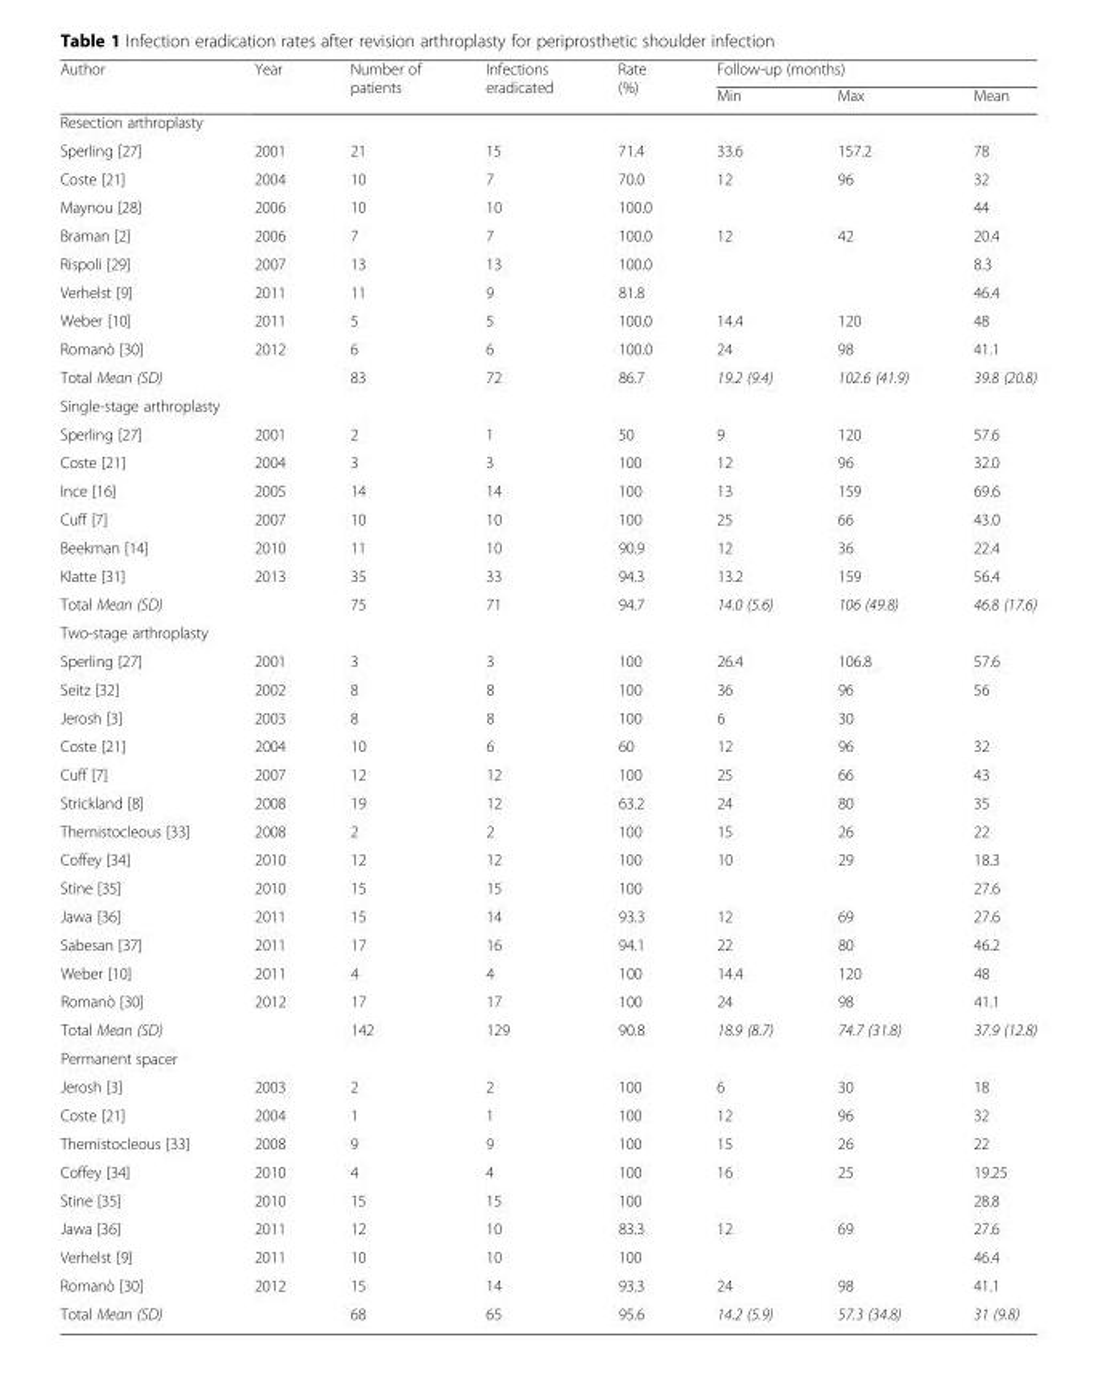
<table><thead><tr><td rowspan="2">Author</td><td rowspan="2">Year</td><td rowspan="2">Number of patients</td><td rowspan="2">Infections eradicated</td><td rowspan="2">Rate (%)</td><td colspan="3">Follow-up (months)</td></tr><tr><td>Min</td><td>Max</td><td>Mean</td></tr></thead><tbody><tr><td colspan="8">Resection arthroplasty</td></tr><tr><td>Sperling [27]</td><td>2001</td><td>21</td><td>15</td><td>71.4</td><td>33.6</td><td>157.2</td><td>78</td></tr><tr><td>Coste [21]</td><td>2004</td><td>10</td><td>7</td><td>70.0</td><td>12</td><td>96</td><td>32</td></tr><tr><td>Maynou [28]</td><td>2006</td><td>10</td><td>10</td><td>100.0</td><td></td><td></td><td>44</td></tr><tr><td>Braman [2]</td><td>2006</td><td>7</td><td>7</td><td>100.0</td><td>12</td><td>42</td><td>20.4</td></tr><tr><td>Rispoli [29]</td><td>2007</td><td>13</td><td>13</td><td>100.0</td><td></td><td></td><td>8.3</td></tr><tr><td>Verhelst [9]</td><td>2011</td><td>11</td><td>9</td><td>81.8</td><td></td><td></td><td>46.4</td></tr><tr><td>Weber [10]</td><td>2011</td><td>5</td><td>5</td><td>100.0</td><td>14.4</td><td>120</td><td>48</td></tr><tr><td>Romanò [30]</td><td>2012</td><td>6</td><td>6</td><td>100.0</td><td>24</td><td>98</td><td>41.1</td></tr><tr><td colspan="2">Total Mean (SD)</td><td>83</td><td>72</td><td>86.7</td><td>19.2 (9.4)</td><td>102.6 (41.9)</td><td>39.8 (20.8)</td></tr><tr><td colspan="8">Single-stage arthroplasty</td></tr><tr><td>Sperling [27]</td><td>2001</td><td>2</td><td>1</td><td>50</td><td>9</td><td>120</td><td>57.6</td></tr><tr><td>Coste [21]</td><td>2004</td><td>3</td><td>3</td><td>100</td><td>12</td><td>96</td><td>32.0</td></tr><tr><td>Ince [16]</td><td>2005</td><td>14</td><td>14</td><td>100</td><td>13</td><td>159</td><td>69.6</td></tr><tr><td>Cuff [7]</td><td>2007</td><td>10</td><td>10</td><td>100</td><td>25</td><td>66</td><td>43.0</td></tr><tr><td>Beekman [14]</td><td>2010</td><td>11</td><td>10</td><td>90.9</td><td>12</td><td>36</td><td>22.4</td></tr><tr><td>Klatte [31]</td><td>2013</td><td>35</td><td>33</td><td>94.3</td><td>13.2</td><td>159</td><td>56.4</td></tr><tr><td colspan="2">Total Mean (SD)</td><td>75</td><td>71</td><td>94.7</td><td>14.0 (5.6)</td><td>106 (49.8)</td><td>46.8 (17.6)</td></tr><tr><td colspan="8">Two-stage arthroplasty</td></tr><tr><td>Sperling [27]</td><td>2001</td><td>3</td><td>3</td><td>100</td><td>26.4</td><td>106.8</td><td>57.6</td></tr><tr><td>Seitz [32]</td><td>2002</td><td>8</td><td>8</td><td>100</td><td>36</td><td>96</td><td>56</td></tr><tr><td>Jerosh [3]</td><td>2003</td><td>8</td><td>8</td><td>100</td><td>6</td><td>30</td><td></td></tr><tr><td>Coste [21]</td><td>2004</td><td>10</td><td>6</td><td>60</td><td>12</td><td>96</td><td>32</td></tr><tr><td>Cuff [7]</td><td>2007</td><td>12</td><td>12</td><td>100</td><td>25</td><td>66</td><td>43</td></tr><tr><td>Strickland [8]</td><td>2008</td><td>19</td><td>12</td><td>63.2</td><td>24</td><td>80</td><td>35</td></tr><tr><td>Themistocleous [33]</td><td>2008</td><td>2</td><td>2</td><td>100</td><td>15</td><td>26</td><td>22</td></tr><tr><td>Coffey [34]</td><td>2010</td><td>12</td><td>12</td><td>100</td><td>10</td><td>29</td><td>18.3</td></tr><tr><td>Stine [35]</td><td>2010</td><td>15</td><td>15</td><td>100</td><td></td><td></td><td>27.6</td></tr><tr><td>Jawa [36]</td><td>2011</td><td>15</td><td>14</td><td>93.3</td><td>12</td><td>69</td><td>27.6</td></tr><tr><td>Sabesan [37]</td><td>2011</td><td>17</td><td>16</td><td>94.1</td><td>22</td><td>80</td><td>46.2</td></tr><tr><td>Weber [10]</td><td>2011</td><td>4</td><td>4</td><td>100</td><td>14.4</td><td>120</td><td>48</td></tr><tr><td>Romanò [30]</td><td>2012</td><td>17</td><td>17</td><td>100</td><td>24</td><td>98</td><td>41.1</td></tr><tr><td colspan="2">Total Mean (SD)</td><td>142</td><td>129</td><td>90.8</td><td>18.9 (8.7)</td><td>74.7 (31.8)</td><td>37.9 (12.8)</td></tr><tr><td colspan="8">Permanent spacer</td></tr><tr><td>Jerosh [3]</td><td>2003</td><td>2</td><td>2</td><td>100</td><td>6</td><td>30</td><td>18</td></tr><tr><td>Coste [21]</td><td>2004</td><td>1</td><td>1</td><td>100</td><td>12</td><td>96</td><td>32</td></tr><tr><td>Themistocleous [33]</td><td>2008</td><td>9</td><td>9</td><td>100</td><td>15</td><td>26</td><td>22</td></tr><tr><td>Coffey [34]</td><td>2010</td><td>4</td><td>4</td><td>100</td><td>16</td><td>25</td><td>19.25</td></tr><tr><td>Stine [35]</td><td>2010</td><td>15</td><td>15</td><td>100</td><td></td><td></td><td>28.8</td></tr><tr><td>Jawa [36]</td><td>2011</td><td>12</td><td>10</td><td>83.3</td><td>12</td><td>69</td><td>27.6</td></tr><tr><td>Verhelst [9]</td><td>2011</td><td>10</td><td>10</td><td>100</td><td></td><td></td><td>46.4</td></tr><tr><td>Romanò [30]</td><td>2012</td><td>15</td><td>14</td><td>93.3</td><td>24</td><td>98</td><td>41.1</td></tr><tr><td colspan="2">Total Mean (SD)</td><td>68</td><td>65</td><td>95.6</td><td>14.2 (5.9)</td><td>57.3 (34.8)</td><td>31 (9.8)</td></tr></tbody></table>